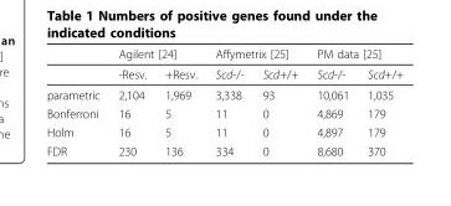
<table><thead><tr><td rowspan="2"></td><td colspan="2">Agilent [24]</td><td colspan="2">Affymetrix [25]</td><td colspan="2">PM data [25]</td></tr><tr><td>-Resv.</td><td>+Resv.</td><td>Scd-/-</td><td>Scd+/+</td><td>Scd-/-</td><td>Scd+/+</td></tr></thead><tbody><tr><td>parametric</td><td>2,104</td><td>1,969</td><td>3,338</td><td>93</td><td>10,061</td><td>1,035</td></tr><tr><td>Bonferroni</td><td>16</td><td>5</td><td>11</td><td>0</td><td>4,869</td><td>179</td></tr><tr><td>Holm</td><td>16</td><td>5</td><td>11</td><td>0</td><td>4,897</td><td>179</td></tr><tr><td>FDR</td><td>230</td><td>136</td><td>334</td><td>0</td><td>8,680</td><td>370</td></tr></tbody></table>